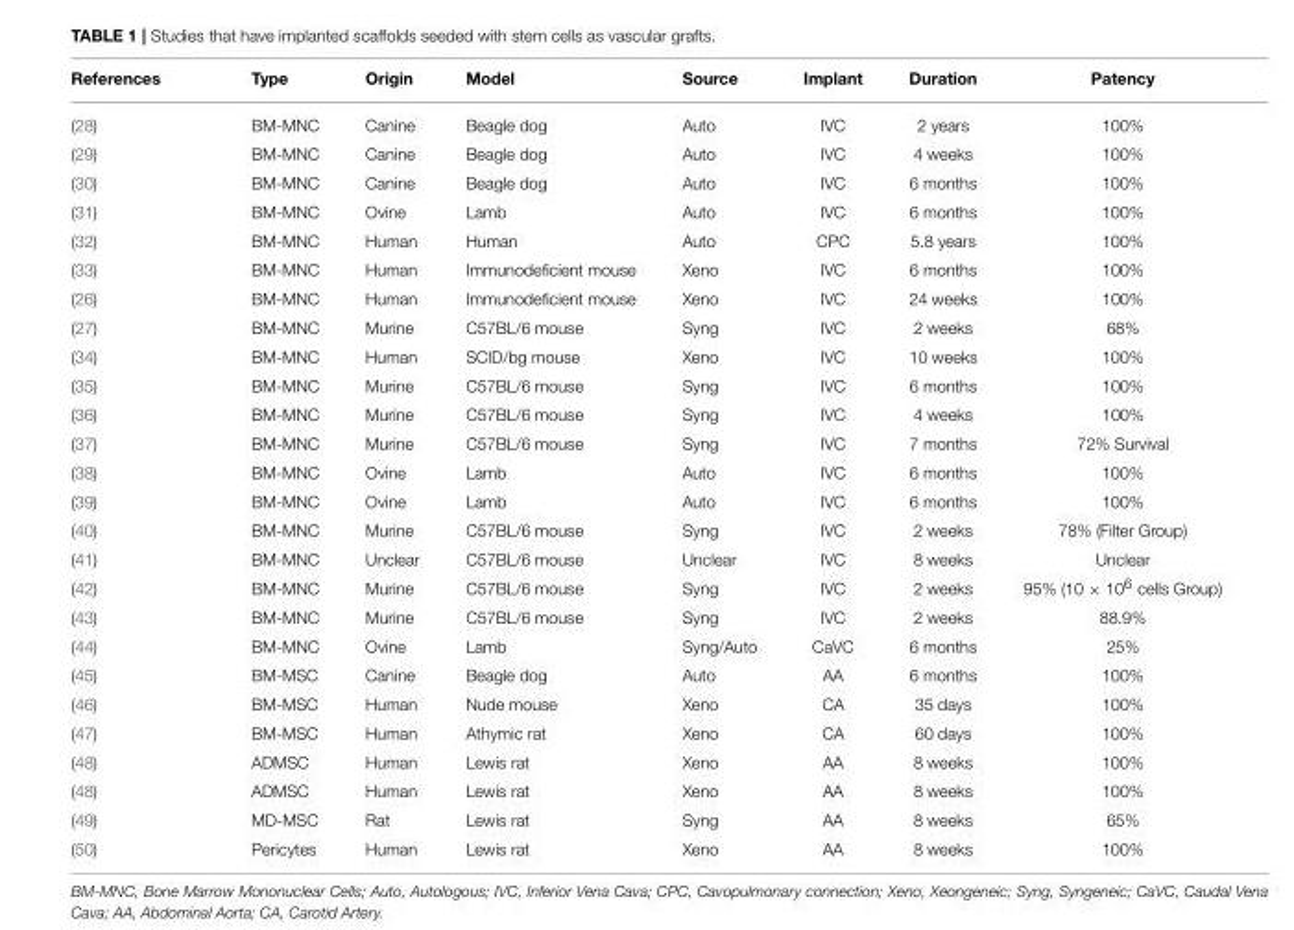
<table><thead><tr><td>References</td><td>Type</td><td>Origin</td><td>Model</td><td>Source</td><td>Implant</td><td>Duration</td><td>Patency</td></tr></thead><tbody><tr><td>(28)</td><td>BM-MNC</td><td>Canine</td><td>Beagle dog</td><td>Auto</td><td>IVC</td><td>2 years</td><td>100%</td></tr><tr><td>(29)</td><td>BM-MNC</td><td>Canine</td><td>Beagle dog</td><td>Auto</td><td>IVC</td><td>4 weeks</td><td>100%</td></tr><tr><td>(30)</td><td>BM-MNC</td><td>Canine</td><td>Beagle dog</td><td>Auto</td><td>IVC</td><td>6 months</td><td>100%</td></tr><tr><td>(31)</td><td>BM-MNC</td><td>Ovine</td><td>Lamb</td><td>Auto</td><td>IVC</td><td>6 months</td><td>100%</td></tr><tr><td>(32)</td><td>BM-MNC</td><td>Human</td><td>Human</td><td>Auto</td><td>CPC</td><td>5.8 years</td><td>100%</td></tr><tr><td>(33)</td><td>BM-MNC</td><td>Human</td><td>Immunodeficient mouse</td><td>Xeno</td><td>IVC</td><td>6 months</td><td>100%</td></tr><tr><td>(26)</td><td>BM-MNC</td><td>Human</td><td>Immunodeficient mouse</td><td>Xeno</td><td>IVC</td><td>24 weeks</td><td>100%</td></tr><tr><td>(27)</td><td>BM-MNC</td><td>Murine</td><td>C57BL/6 mouse</td><td>Syng</td><td>IVC</td><td>2 weeks</td><td>68%</td></tr><tr><td>(34)</td><td>BM-MNC</td><td>Human</td><td>SCID/bg mouse</td><td>Xeno</td><td>IVC</td><td>10 weeks</td><td>100%</td></tr><tr><td>(35)</td><td>BM-MNC</td><td>Murine</td><td>C57BL/6 mouse</td><td>Syng</td><td>IVC</td><td>6 months</td><td>100%</td></tr><tr><td>(36)</td><td>BM-MNC</td><td>Murine</td><td>C57BL/6 mouse</td><td>Syng</td><td>IVC</td><td>4 weeks</td><td>100%</td></tr><tr><td>(37)</td><td>BM-MNC</td><td>Murine</td><td>C57BL/6 mouse</td><td>Syng</td><td>IVC</td><td>7 months</td><td>72% Survival</td></tr><tr><td>(38)</td><td>BM-MNC</td><td>Ovine</td><td>Lamb</td><td>Auto</td><td>IVC</td><td>6 months</td><td>100%</td></tr><tr><td>(39)</td><td>BM-MNC</td><td>Ovine</td><td>Lamb</td><td>Auto</td><td>IVC</td><td>6 months</td><td>100%</td></tr><tr><td>(40)</td><td>BM-MNC</td><td>Murine</td><td>C57BL/6 mouse</td><td>Syng</td><td>IVC</td><td>2 weeks</td><td>78% (Filter Group)</td></tr><tr><td>(41)</td><td>BM-MNC</td><td>Unclear</td><td>C57BL/6 mouse</td><td>Unclear</td><td>IVC</td><td>8 weeks</td><td>Unclear</td></tr><tr><td>(42)</td><td>BM-MNC</td><td>Murine</td><td>C57BL/6 mouse</td><td>Syng</td><td>IVC</td><td>2 weeks</td><td>95% (10 × 10<sup>6</sup> cells Group)</td></tr><tr><td>(43)</td><td>BM-MNC</td><td>Murine</td><td>C57BL/6 mouse</td><td>Syng</td><td>IVC</td><td>2 weeks</td><td>88.9%</td></tr><tr><td>(44)</td><td>BM-MNC</td><td>Ovine</td><td>Lamb</td><td>Syng/Auto</td><td>CaVC</td><td>6 months</td><td>25%</td></tr><tr><td>(45)</td><td>BM-MSC</td><td>Canine</td><td>Beagle dog</td><td>Auto</td><td>AA</td><td>6 months</td><td>100%</td></tr><tr><td>(46)</td><td>BM-MSC</td><td>Human</td><td>Nude mouse</td><td>Xeno</td><td>CA</td><td>35 days</td><td>100%</td></tr><tr><td>(47)</td><td>BM-MSC</td><td>Human</td><td>Athymic rat</td><td>Xeno</td><td>CA</td><td>60 days</td><td>100%</td></tr><tr><td>(48)</td><td>ADMSC</td><td>Human</td><td>Lewis rat</td><td>Xeno</td><td>AA</td><td>8 weeks</td><td>100%</td></tr><tr><td>(48)</td><td>ADMSC</td><td>Human</td><td>Lewis rat</td><td>Xeno</td><td>AA</td><td>8 weeks</td><td>100%</td></tr><tr><td>(49)</td><td>MD-MSC</td><td>Rat</td><td>Lewis rat</td><td>Syng</td><td>AA</td><td>8 weeks</td><td>65%</td></tr><tr><td>(50)</td><td>Pericytes</td><td>Human</td><td>Lewis rat</td><td>Xeno</td><td>AA</td><td>8 weeks</td><td>100%</td></tr></tbody></table>